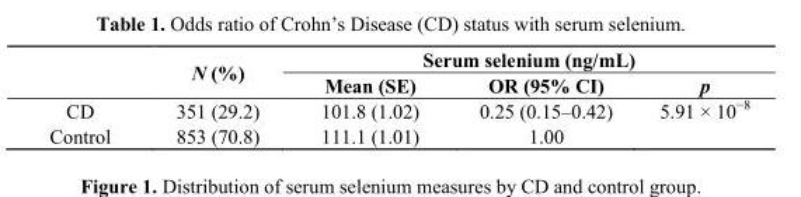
<table><thead><tr><td rowspan="2"></td><td rowspan="2">N (%)</td><td colspan="3">Serum selenium (ng/mL)</td></tr><tr><td>Mean (SE)</td><td>OR (95% CI)</td><td>p</td></tr></thead><tbody><tr><td>CD</td><td>351 (29.2)</td><td>101.8 (1.02)</td><td>0.25 (0.15–0.42)</td><td>5.91 × 10<sup>−8</sup></td></tr><tr><td>Control</td><td>853 (70.8)</td><td>111.1 (1.01)</td><td>1.00</td><td></td></tr></tbody></table>